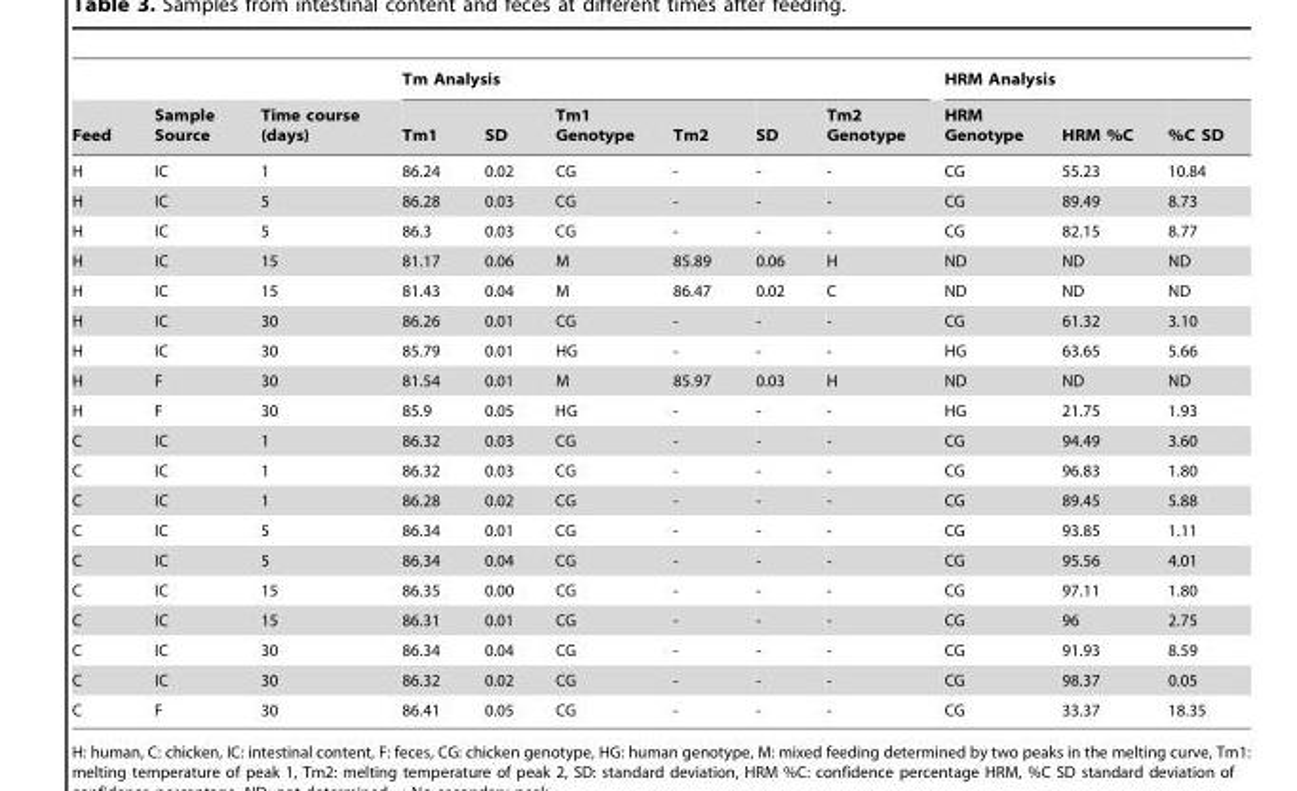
<table><thead><tr><td rowspan="2">Feed</td><td rowspan="2">Sample Source</td><td rowspan="2">Time course (days)</td><td colspan="6">Tm Analysis</td><td colspan="3">HRM Analysis</td></tr><tr><td>Tm1</td><td>SD</td><td>Tm1 Genotype</td><td>Tm2</td><td>SD</td><td>Tm2 Genotype</td><td>HRM Genotype</td><td>HRM %C</td><td>%C SD</td></tr></thead><tbody><tr><td>H</td><td>IC</td><td>1</td><td>86.24</td><td>0.02</td><td>CG</td><td>-</td><td>-</td><td>-</td><td>CG</td><td>55.23</td><td>10.84</td></tr><tr><td>H</td><td>IC</td><td>5</td><td>86.28</td><td>0.03</td><td>CG</td><td>-</td><td>-</td><td>-</td><td>CG</td><td>89.49</td><td>8.73</td></tr><tr><td>H</td><td>IC</td><td>5</td><td>86.3</td><td>0.03</td><td>CG</td><td>-</td><td>-</td><td>-</td><td>CG</td><td>82.15</td><td>8.77</td></tr><tr><td>H</td><td>IC</td><td>15</td><td>81.17</td><td>0.06</td><td>M</td><td>85.89</td><td>0.06</td><td>H</td><td>ND</td><td>ND</td><td>ND</td></tr><tr><td>H</td><td>IC</td><td>15</td><td>81.43</td><td>0.04</td><td>M</td><td>86.47</td><td>0.02</td><td>C</td><td>ND</td><td>ND</td><td>ND</td></tr><tr><td>H</td><td>IC</td><td>30</td><td>86.26</td><td>0.01</td><td>CG</td><td>-</td><td>-</td><td>-</td><td>CG</td><td>61.32</td><td>3.10</td></tr><tr><td>H</td><td>IC</td><td>30</td><td>85.79</td><td>0.01</td><td>HG</td><td>-</td><td>-</td><td>-</td><td>HG</td><td>63.65</td><td>5.66</td></tr><tr><td>H</td><td>F</td><td>30</td><td>81.54</td><td>0.01</td><td>M</td><td>85.97</td><td>0.03</td><td>H</td><td>ND</td><td>ND</td><td>ND</td></tr><tr><td>H</td><td>F</td><td>30</td><td>85.9</td><td>0.05</td><td>HG</td><td>-</td><td>-</td><td>-</td><td>HG</td><td>21.75</td><td>1.93</td></tr><tr><td>C</td><td>IC</td><td>1</td><td>86.32</td><td>0.03</td><td>CG</td><td>-</td><td>-</td><td>-</td><td>CG</td><td>94.49</td><td>3.60</td></tr><tr><td>C</td><td>IC</td><td>1</td><td>86.32</td><td>0.03</td><td>CG</td><td>-</td><td>-</td><td>-</td><td>CG</td><td>96.83</td><td>1.80</td></tr><tr><td>C</td><td>IC</td><td>1</td><td>86.28</td><td>0.02</td><td>CG</td><td>-</td><td>-</td><td>-</td><td>CG</td><td>89.45</td><td>5.88</td></tr><tr><td>C</td><td>IC</td><td>5</td><td>86.34</td><td>0.01</td><td>CG</td><td>-</td><td>-</td><td>-</td><td>CG</td><td>93.85</td><td>1.11</td></tr><tr><td>C</td><td>IC</td><td>5</td><td>86.34</td><td>0.04</td><td>CG</td><td>-</td><td>-</td><td>-</td><td>CG</td><td>95.56</td><td>4.01</td></tr><tr><td>C</td><td>IC</td><td>15</td><td>86.35</td><td>0.00</td><td>CG</td><td>-</td><td>-</td><td>-</td><td>CG</td><td>97.11</td><td>1.80</td></tr><tr><td>C</td><td>IC</td><td>15</td><td>86.31</td><td>0.01</td><td>CG</td><td>-</td><td>-</td><td>-</td><td>CG</td><td>96</td><td>2.75</td></tr><tr><td>C</td><td>IC</td><td>30</td><td>86.34</td><td>0.04</td><td>CG</td><td>-</td><td>-</td><td>-</td><td>CG</td><td>91.93</td><td>8.59</td></tr><tr><td>C</td><td>IC</td><td>30</td><td>86.32</td><td>0.02</td><td>CG</td><td>-</td><td>-</td><td>-</td><td>CG</td><td>98.37</td><td>0.05</td></tr><tr><td>C</td><td>F</td><td>30</td><td>86.41</td><td>0.05</td><td>CG</td><td>-</td><td>-</td><td>-</td><td>CG</td><td>33.37</td><td>18.35</td></tr></tbody></table>